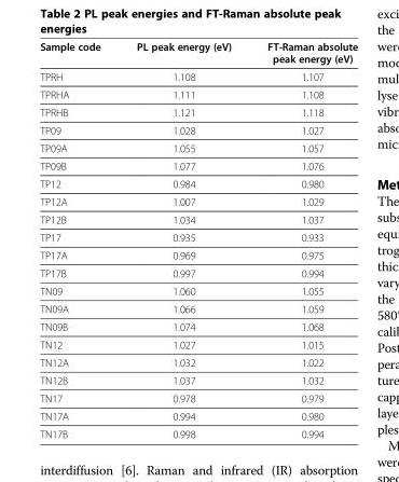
<table><thead><tr><td>Sample code</td><td>PL peak energy (eV)</td><td>FT-Raman absolute peak energy (eV)</td></tr></thead><tbody><tr><td>TPRH</td><td>1.108</td><td>1.107</td></tr><tr><td>TPRHA</td><td>1.111</td><td>1.108</td></tr><tr><td>TPRHB</td><td>1.121</td><td>1.118</td></tr><tr><td>TP09</td><td>1.028</td><td>1.027</td></tr><tr><td>TP09A</td><td>1.055</td><td>1.057</td></tr><tr><td>TP09B</td><td>1.077</td><td>1.076</td></tr><tr><td>TP12</td><td>0.984</td><td>0.980</td></tr><tr><td>TP12A</td><td>1.007</td><td>1.029</td></tr><tr><td>TP12B</td><td>1.034</td><td>1.037</td></tr><tr><td>TP17</td><td>0.935</td><td>0.933</td></tr><tr><td>TP17A</td><td>0.969</td><td>0.975</td></tr><tr><td>TP17B</td><td>0.997</td><td>0.994</td></tr><tr><td>TN09</td><td>1.060</td><td>1.055</td></tr><tr><td>TN09A</td><td>1.066</td><td>1.059</td></tr><tr><td>TN09B</td><td>1.074</td><td>1.068</td></tr><tr><td>TN12</td><td>1.027</td><td>1.015</td></tr><tr><td>TN12A</td><td>1.032</td><td>1.022</td></tr><tr><td>TN12B</td><td>1.037</td><td>1.032</td></tr><tr><td>TN17</td><td>0.978</td><td>0.979</td></tr><tr><td>TN17A</td><td>0.994</td><td>0.980</td></tr><tr><td>TN17B</td><td>0.998</td><td>0.994</td></tr></tbody></table>